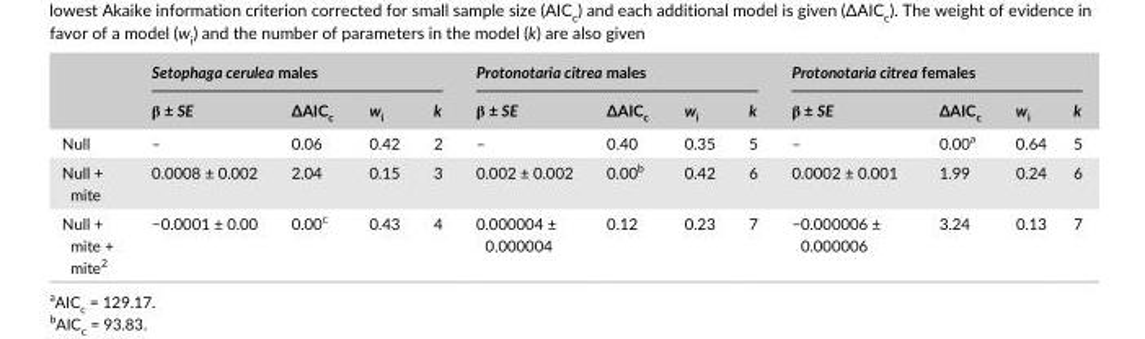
<table><thead><tr><td rowspan="2"></td><td colspan="4">Setophaga cerulea males</td><td colspan="4">Protonotaria citrea males</td><td colspan="4">Protonotaria citrea females</td></tr><tr><td>β ± SE</td><td>∆AIC<sub>c</sub></td><td>w<sub>i</sub></td><td>k</td><td>β ± SE</td><td>∆AIC<sub>c</sub></td><td>w<sub>i</sub></td><td>k</td><td>β ± SE</td><td>∆AIC<sub>c</sub></td><td>w<sub>i</sub></td><td>k</td></tr></thead><tbody><tr><td>Null</td><td>–</td><td>0.06</td><td>0.42</td><td>2</td><td>–</td><td>0.40</td><td>0.35</td><td>5</td><td>–</td><td>0.00<sup>a</sup></td><td>0.64</td><td>5</td></tr><tr><td>Null + mite</td><td>0.0008 ± 0.002</td><td>2.04</td><td>0.15</td><td>3</td><td>0.002 ± 0.002</td><td>0.00<sup>b</sup></td><td>0.42</td><td>6</td><td>0.0002 ± 0.001</td><td>1.99</td><td>0.24</td><td>6</td></tr><tr><td>Null + mite + mite2</td><td>−0.0001 ± 0.00</td><td>0.00<sup>c</sup></td><td>0.43</td><td>4</td><td>0 .000004 ± 0.000004</td><td>0.12</td><td>0.23</td><td>7</td><td>− 0.000006 ± 0.000006</td><td>3.24</td><td>0.13</td><td>7</td></tr></tbody></table>